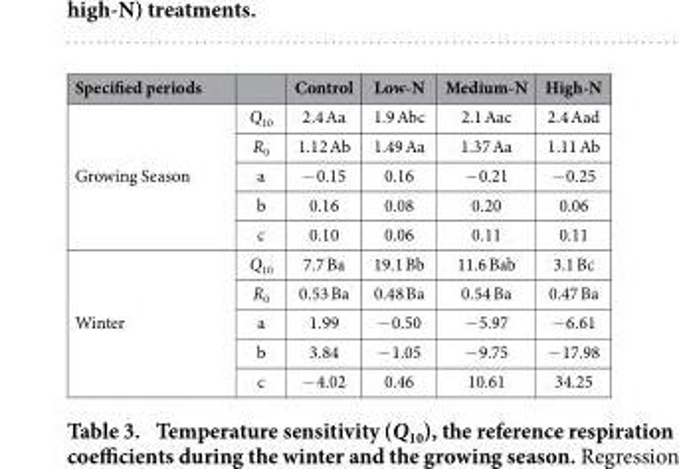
<table><thead><tr><td>Specified periods</td><td></td><td>Control</td><td>Low-N</td><td>Medium-N</td><td>High-N</td></tr></thead><tbody><tr><td rowspan="5">Growing Season</td><td>Q<sub>10</sub></td><td>2.4 Aa</td><td>1.9 Abc</td><td>2.1 Aac</td><td>2.4 Aad</td></tr><tr><td>R<sub>0</sub></td><td>1.12 Ab</td><td>1.49 Aa</td><td>1.37 Aa</td><td>1.11 Ab</td></tr><tr><td>a</td><td>− 0.15</td><td>0.16</td><td>− 0.21</td><td>− 0.25</td></tr><tr><td>b</td><td>0.16</td><td>0.08</td><td>0.20</td><td>0.06</td></tr><tr><td>c</td><td>0.10</td><td>0.06</td><td>0.11</td><td>0.11</td></tr><tr><td rowspan="5">Winter</td><td>Q<sub>10</sub></td><td>7.7 Ba</td><td>19.1 Bb</td><td>11.6 Bab</td><td>3.1 Bc</td></tr><tr><td>R<sub>0</sub></td><td>0.53 Ba</td><td>0.48 Ba</td><td>0.54 Ba</td><td>0.47 Ba</td></tr><tr><td>a</td><td>1.99</td><td>− 0.50</td><td>− 5.97</td><td>− 6.61</td></tr><tr><td>b</td><td>3.84</td><td>− 1.05</td><td>− 9.75</td><td>− 17.98</td></tr><tr><td>c</td><td>− 4.02</td><td>0.46</td><td>10.61</td><td>34.25</td></tr></tbody></table>